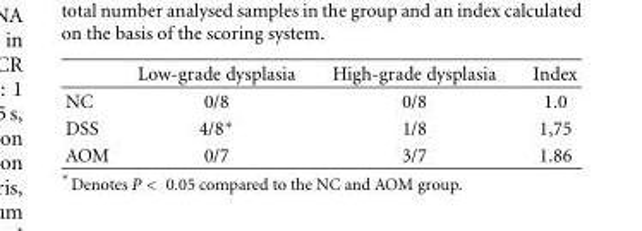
<table><thead><tr><td></td><td>Low-grade dysplasia</td><td>High-grade dysplasia</td><td>Index</td></tr></thead><tbody><tr><td>NC</td><td>0/8</td><td>0/8</td><td>1.0</td></tr><tr><td>DSS</td><td>4/8∗</td><td>1/8</td><td>1,75</td></tr><tr><td>AOM</td><td>0/7</td><td>3/7</td><td>1.86</td></tr></tbody></table>